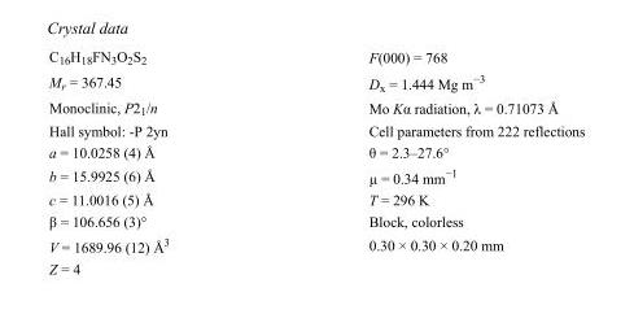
<table><tbody><tr><td>C<sub>16</sub>H<sub>18</sub>FN<sub>3</sub>O<sub>2</sub>S<sub>2</sub></td><td>F(000) = 768</td></tr><tr><td>M<sub>r</sub> = 367.45</td><td>D<sub>x</sub> = 1.444 Mg m<sup>−3</sup></td></tr><tr><td>Monoclinic, P2<sub>1</sub>/n</td><td>Mo Kα radiation, λ = 0.71073 Å</td></tr><tr><td>Hall symbol: -P 2yn</td><td>Cell parameters from 222 reflections</td></tr><tr><td>a = 10.0258 (4) Å</td><td>θ = 2.3–27.6°</td></tr><tr><td>b = 15.9925 (6) Å</td><td>µ = 0.34 mm<sup>−1</sup></td></tr><tr><td>c = 11.0016 (5) Å</td><td>T = 296 K</td></tr><tr><td>β = 106.656 (3)°</td><td>Block, colorless</td></tr><tr><td>V = 1689.96 (12) Å<sup>3</sup></td><td>0.30 × 0.30 × 0.20 mm</td></tr><tr><td>Z = 4</td><td></td></tr></tbody></table>